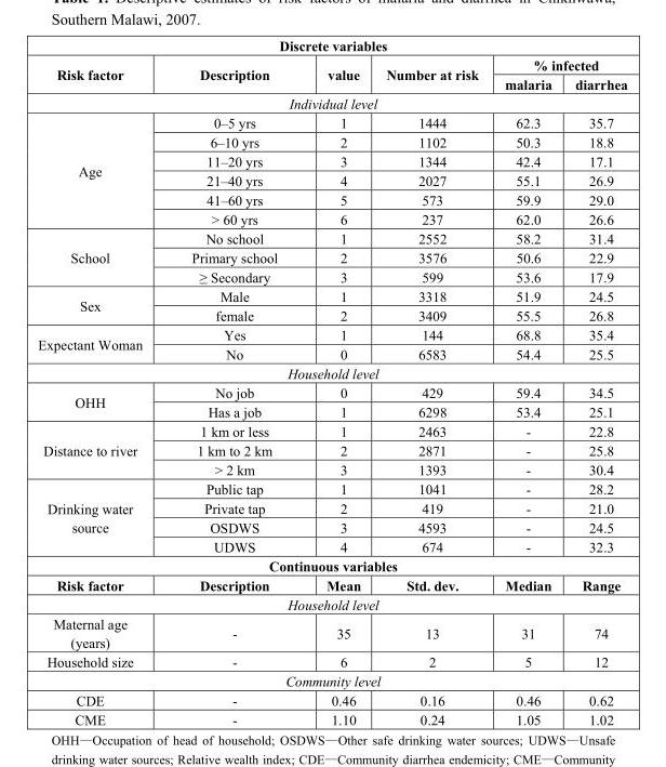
<table><thead><tr><td colspan="6">Discrete variables</td></tr><tr><td rowspan="2">Risk factor</td><td rowspan="2">Description</td><td rowspan="2">value</td><td rowspan="2">Number at risk</td><td colspan="2">% infected</td></tr><tr><td>malaria</td><td>diarrhea</td></tr></thead><tbody><tr><td colspan="6">Individual level</td></tr><tr><td rowspan="6">Age</td><td>0–5 yrs</td><td>1</td><td>1444</td><td>62.3</td><td>35.7</td></tr><tr><td>6–10 yrs</td><td>2</td><td>1102</td><td>50.3</td><td>18.8</td></tr><tr><td>11–20 yrs</td><td>3</td><td>1344</td><td>42.4</td><td>17.1</td></tr><tr><td>21–40 yrs</td><td>4</td><td>2027</td><td>55.1</td><td>26.9</td></tr><tr><td>41–60 yrs</td><td>5</td><td>573</td><td>59.9</td><td>29.0</td></tr><tr><td>&gt; 60 yrs</td><td>6</td><td>237</td><td>62.0</td><td>26.6</td></tr><tr><td rowspan="3">School</td><td>No school</td><td>1</td><td>2552</td><td>58.2</td><td>31.4</td></tr><tr><td>Primary school</td><td>2</td><td>3576</td><td>50.6</td><td>22.9</td></tr><tr><td>≥ Secondary</td><td>3</td><td>599</td><td>53.6</td><td>17.9</td></tr><tr><td rowspan="2">Sex</td><td>Male</td><td>1</td><td>3318</td><td>51.9</td><td>24.5</td></tr><tr><td>female</td><td>2</td><td>3409</td><td>55.5</td><td>26.8</td></tr><tr><td rowspan="2">Expectant Woman</td><td>Yes</td><td>1</td><td>144</td><td>68.8</td><td>35.4</td></tr><tr><td>No</td><td>0</td><td>6583</td><td>54.4</td><td>25.5</td></tr><tr><td colspan="6">Household level</td></tr><tr><td rowspan="2">OHH</td><td>No job</td><td>0</td><td>429</td><td>59.4</td><td>34.5</td></tr><tr><td>Has a job</td><td>1</td><td>6298</td><td>53.4</td><td>25.1</td></tr><tr><td rowspan="3">Distance to river</td><td>1 km or less</td><td>1</td><td>2463</td><td>-</td><td>22.8</td></tr><tr><td>1 km to 2 km</td><td>2</td><td>2871</td><td>-</td><td>25.8</td></tr><tr><td>&gt; 2 km</td><td>3</td><td>1393</td><td>-</td><td>30.4</td></tr><tr><td rowspan="4">Drinking water source</td><td>Public tap</td><td>1</td><td>1041</td><td>-</td><td>28.2</td></tr><tr><td>Private tap</td><td>2</td><td>419</td><td>-</td><td>21.0</td></tr><tr><td>OSDWS</td><td>3</td><td>4593</td><td>-</td><td>24.5</td></tr><tr><td>UDWS</td><td>4</td><td>674</td><td>-</td><td>32.3</td></tr><tr><td colspan="6">Continuous variables</td></tr><tr><td>Risk factor</td><td>Description</td><td>Mean</td><td>Std. dev.</td><td>Median</td><td>Range</td></tr><tr><td colspan="6">Household level</td></tr><tr><td>Maternal age (years)</td><td>-</td><td>35</td><td>13</td><td>31</td><td>74</td></tr><tr><td>Household size</td><td>-</td><td>6</td><td>2</td><td>5</td><td>12</td></tr><tr><td colspan="6">Community level</td></tr><tr><td>CDE</td><td>-</td><td>0.46</td><td>0.16</td><td>0.46</td><td>0.62</td></tr><tr><td>CME</td><td>-</td><td>1.10</td><td>0.24</td><td>1.05</td><td>1.02</td></tr></tbody></table>